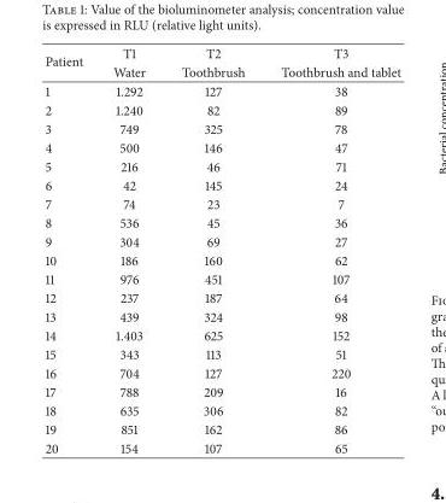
<table><thead><tr><td rowspan="2">Patient</td><td rowspan="2">T1 Water</td><td rowspan="2">T2 Toothbrush</td><td rowspan="2">T3 Toothbrush and tablet</td></tr><tr></tr></thead><tbody><tr><td>1</td><td>1.292</td><td>127</td><td>38</td></tr><tr><td>2</td><td>1.240</td><td>82</td><td>89</td></tr><tr><td>3</td><td>749</td><td>325</td><td>78</td></tr><tr><td>4</td><td>500</td><td>146</td><td>47</td></tr><tr><td>5</td><td>216</td><td>46</td><td>71</td></tr><tr><td>6</td><td>42</td><td>145</td><td>24</td></tr><tr><td>7</td><td>74</td><td>23</td><td>7</td></tr><tr><td>8</td><td>536</td><td>45</td><td>36</td></tr><tr><td>9</td><td>304</td><td>69</td><td>27</td></tr><tr><td>10</td><td>186</td><td>160</td><td>62</td></tr><tr><td>11</td><td>976</td><td>451</td><td>107</td></tr><tr><td>12</td><td>237</td><td>187</td><td>64</td></tr><tr><td>13</td><td>439</td><td>324</td><td>98</td></tr><tr><td>14</td><td>1.403</td><td>625</td><td>152</td></tr><tr><td>15</td><td>343</td><td>113</td><td>51</td></tr><tr><td>16</td><td>704</td><td>127</td><td>220</td></tr><tr><td>17</td><td>788</td><td>209</td><td>16</td></tr><tr><td>18</td><td>635</td><td>306</td><td>82</td></tr><tr><td>19</td><td>851</td><td>162</td><td>86</td></tr><tr><td>20</td><td>154</td><td>107</td><td>65</td></tr></tbody></table>